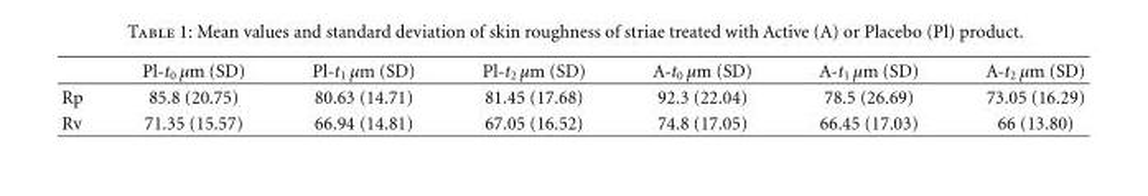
<table><thead><tr><td></td><td>Pl-t<sub>0</sub> µm (SD)</td><td>Pl-t<sub>1</sub> µm (SD)</td><td>Pl-t<sub>2</sub> µm (SD)</td><td>A-t<sub>0</sub> µm (SD)</td><td>A-t<sub>1</sub> µm (SD)</td><td>A-t<sub>2</sub> µm (SD)</td></tr></thead><tbody><tr><td>Rp</td><td>85.8 (20.75)</td><td>80.63 (14.71)</td><td>81.45 (17.68)</td><td>92.3 (22.04)</td><td>78.5 (26.69)</td><td>73.05 (16.29)</td></tr><tr><td>Rv</td><td>71.35 (15.57)</td><td>66.94 (14.81)</td><td>67.05 (16.52)</td><td>74.8 (17.05)</td><td>66.45 (17.03)</td><td>66 (13.80)</td></tr></tbody></table>